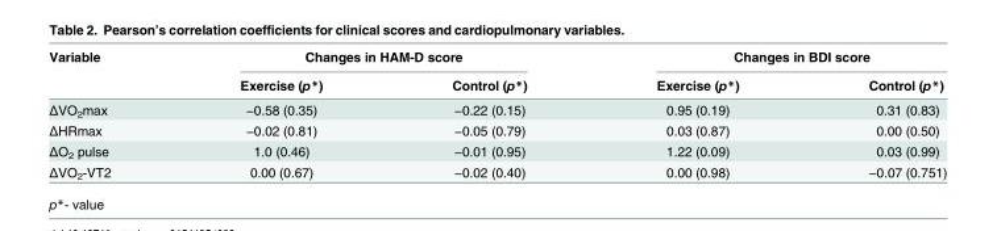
<table><thead><tr><td rowspan="2">Variable</td><td colspan="2">Changes in HAM-D score</td><td colspan="2">Changes in BDI score</td></tr><tr><td>Exercise (p*)</td><td>Control (p*)</td><td>Exercise (p*)</td><td>Control (p*)</td></tr></thead><tbody><tr><td>ΔVO<sub>2</sub>max</td><td>−0.58 (0.35)</td><td>−0.22 (0.15)</td><td>0.95 (0.19)</td><td>0.31 (0.83)</td></tr><tr><td>ΔHRmax</td><td>−0.02 (0.81)</td><td>−0.05 (0.79)</td><td>0.03 (0.87)</td><td>0.00 (0.50)</td></tr><tr><td>ΔO<sub>2</sub> pulse</td><td>1.0 (0.46)</td><td>−0.01 (0.95)</td><td>1.22 (0.09)</td><td>0.03 (0.99)</td></tr><tr><td>ΔVO<sub>2</sub>-VT2</td><td>0.00 (0.67)</td><td>−0.02 (0.40)</td><td>0.00 (0.98)</td><td>−0.07 (0.751)</td></tr></tbody></table>